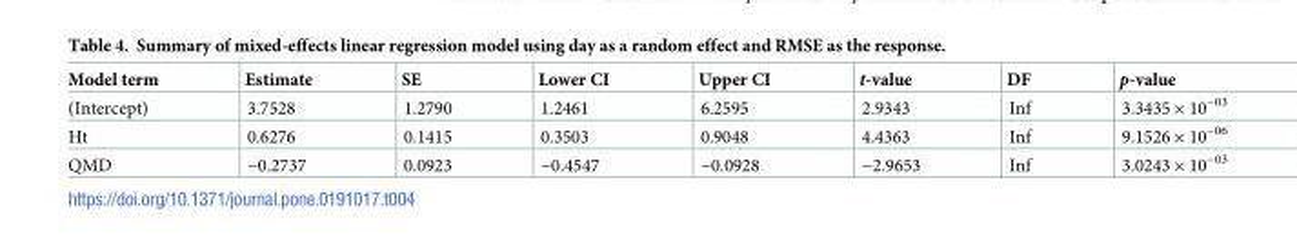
<table><thead><tr><td>Model term</td><td>Estimate</td><td>SE</td><td>Lower CI</td><td>Upper CI</td><td>t-value</td><td>DF</td><td>p-value</td></tr></thead><tbody><tr><td>(Intercept)</td><td>3.7528</td><td>1.2790</td><td>1.2461</td><td>6.2595</td><td>2.9343</td><td>Inf</td><td>3.3435 × 10<sup>−03</sup></td></tr><tr><td>Ht</td><td>0.6276</td><td>0.1415</td><td>0.3503</td><td>0.9048</td><td>4.4363</td><td>Inf</td><td>9.1526 × 10<sup>−06</sup></td></tr><tr><td>QMD</td><td>−0.2737</td><td>0.0923</td><td>−0.4547</td><td>−0.0928</td><td>−2.9653</td><td>Inf</td><td>3.0243 × 10<sup>−03</sup></td></tr></tbody></table>